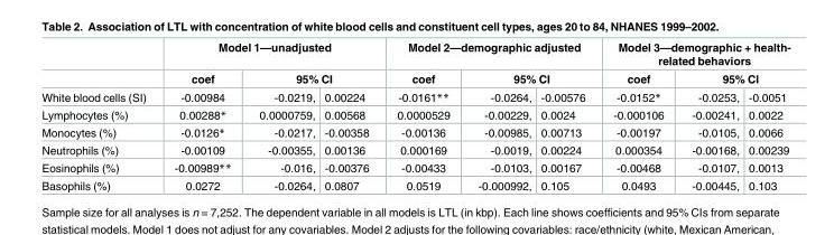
<table><thead><tr><td rowspan="3">White blood cells (SI)</td><td colspan="3">Model 1—unadjusted</td><td colspan="3">Model 2—demographic adjusted</td><td colspan="3">Model 3—demographic + health- related behaviors</td></tr><tr><td rowspan="2">coef -0.00984</td><td colspan="2">95% CI</td><td rowspan="2">coef -0.0161**</td><td colspan="2">95% CI</td><td rowspan="2">coef -0.0152*</td><td colspan="2">95% CI</td></tr><tr><td>-0.0219,</td><td>0.00224</td><td>-0.0264,</td><td>-0.00576</td><td>-0.0253,</td><td>-0.0051</td></tr></thead><tbody><tr><td>Lymphocytes (%)</td><td>0.00288*</td><td>0.0000759,</td><td>0.00568</td><td>0.0000529</td><td>-0.00229,</td><td>0.0024</td><td>-0.000106</td><td>-0.00241,</td><td>0.0022</td></tr><tr><td>Monocytes (%)</td><td>-0.0126*</td><td>-0.0217,</td><td>-0.00358</td><td>-0.00136</td><td>-0.00985,</td><td>0.00713</td><td>-0.00197</td><td>-0.0105,</td><td>0.0066</td></tr><tr><td>Neutrophils (%)</td><td>-0.00109</td><td>-0.00355,</td><td>0.00136</td><td>0.000169</td><td>-0.0019,</td><td>0.00224</td><td>0.000354</td><td>-0.00168,</td><td>0.00239</td></tr><tr><td>Eosinophils (%)</td><td>-0.00989**</td><td>-0.016,</td><td>-0.00376</td><td>-0.00433</td><td>-0.0103,</td><td>0.00167</td><td>-0.00468</td><td>-0.0107,</td><td>0.0013</td></tr><tr><td>Basophils (%)</td><td>0.0272</td><td>-0.0264,</td><td>0.0807</td><td>0.0519</td><td>-0.000992,</td><td>0.105</td><td>0.0493</td><td>-0.00445,</td><td>0.103</td></tr></tbody></table>